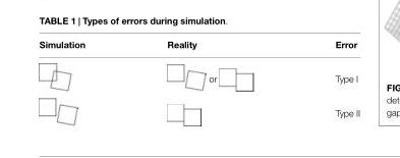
<table><thead><tr><td>Simulation</td><td>Reality</td><td>Error</td></tr></thead><tbody><tr><td></td><td>or</td><td>Type I</td></tr><tr><td></td><td></td><td>Type II</td></tr></tbody></table>